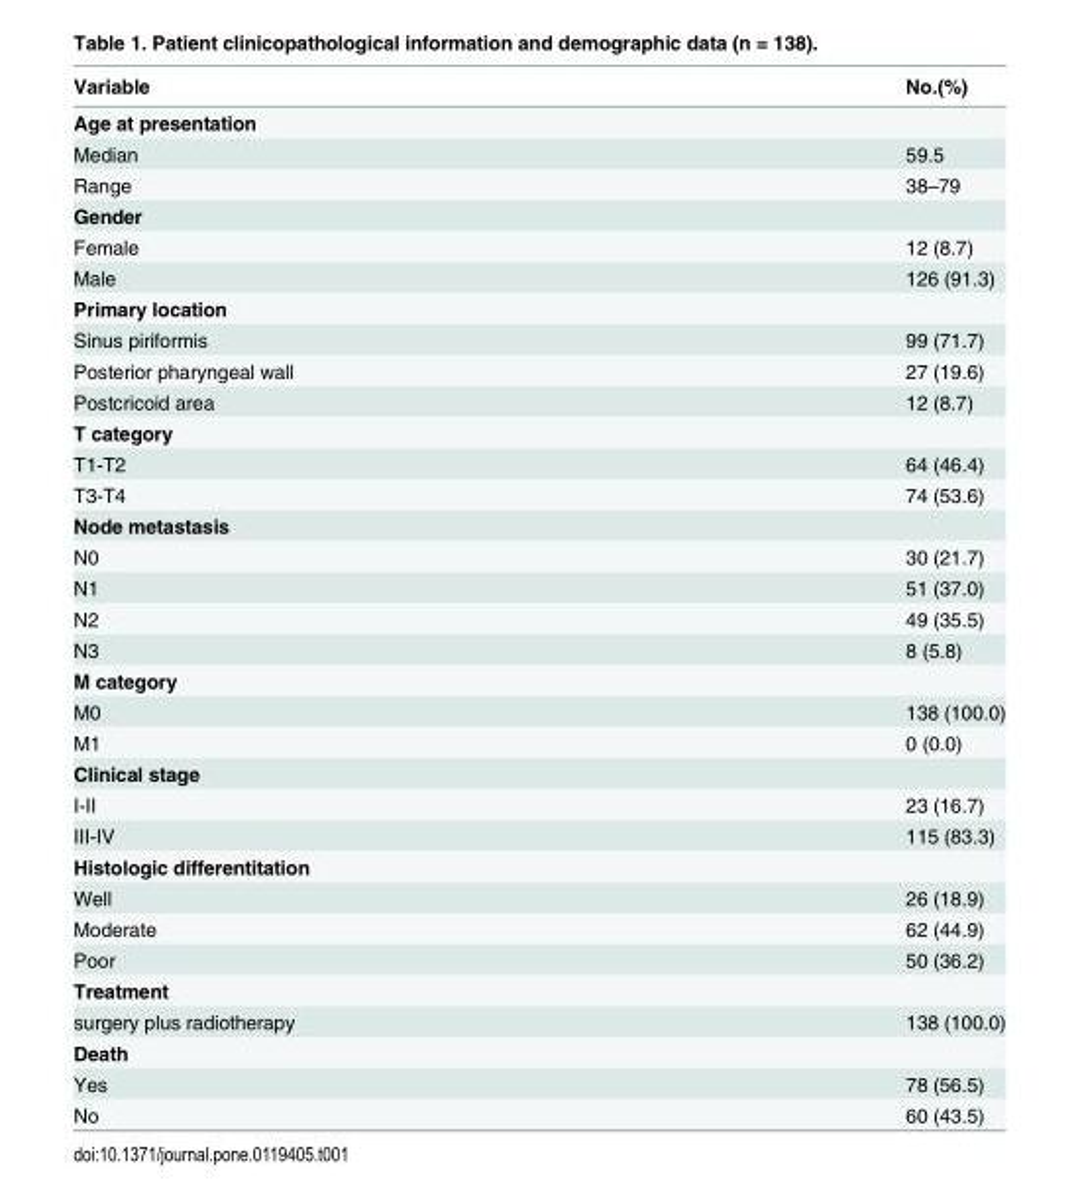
<table><thead><tr><td>Variable</td><td>No.(%)</td></tr></thead><tbody><tr><td colspan="2">Age at presentation</td></tr><tr><td>Median</td><td>59.5</td></tr><tr><td>Range</td><td>38–79</td></tr><tr><td colspan="2">Gender</td></tr><tr><td>Female</td><td>12 (8.7)</td></tr><tr><td>Male</td><td>126 (91.3)</td></tr><tr><td colspan="2">Primary location</td></tr><tr><td>Sinus piriformis</td><td>99 (71.7)</td></tr><tr><td>Posterior pharyngeal wall</td><td>27 (19.6)</td></tr><tr><td>Postcricoid area</td><td>12 (8.7)</td></tr><tr><td colspan="2">T category</td></tr><tr><td>T1-T2</td><td>64 (46.4)</td></tr><tr><td>T3-T4</td><td>74 (53.6)</td></tr><tr><td colspan="2">Node metastasis</td></tr><tr><td>N0</td><td>30 (21.7)</td></tr><tr><td>N1</td><td>51 (37.0)</td></tr><tr><td>N2</td><td>49 (35.5)</td></tr><tr><td>N3</td><td>8 (5.8)</td></tr><tr><td colspan="2">M category</td></tr><tr><td>M0</td><td>138 (100.0)</td></tr><tr><td>M1</td><td>0 (0.0)</td></tr><tr><td colspan="2">Clinical stage</td></tr><tr><td>I-II</td><td>23 (16.7)</td></tr><tr><td>III-IV</td><td>115 (83.3)</td></tr><tr><td colspan="2">Histologic differentitation</td></tr><tr><td>Well</td><td>26 (18.9)</td></tr><tr><td>Moderate</td><td>62 (44.9)</td></tr><tr><td>Poor</td><td>50 (36.2)</td></tr><tr><td colspan="2">Treatment</td></tr><tr><td>surgery plus radiotherapy</td><td>138 (100.0)</td></tr><tr><td colspan="2">Death</td></tr><tr><td>Yes</td><td>78 (56.5)</td></tr><tr><td>No</td><td>60 (43.5)</td></tr></tbody></table>